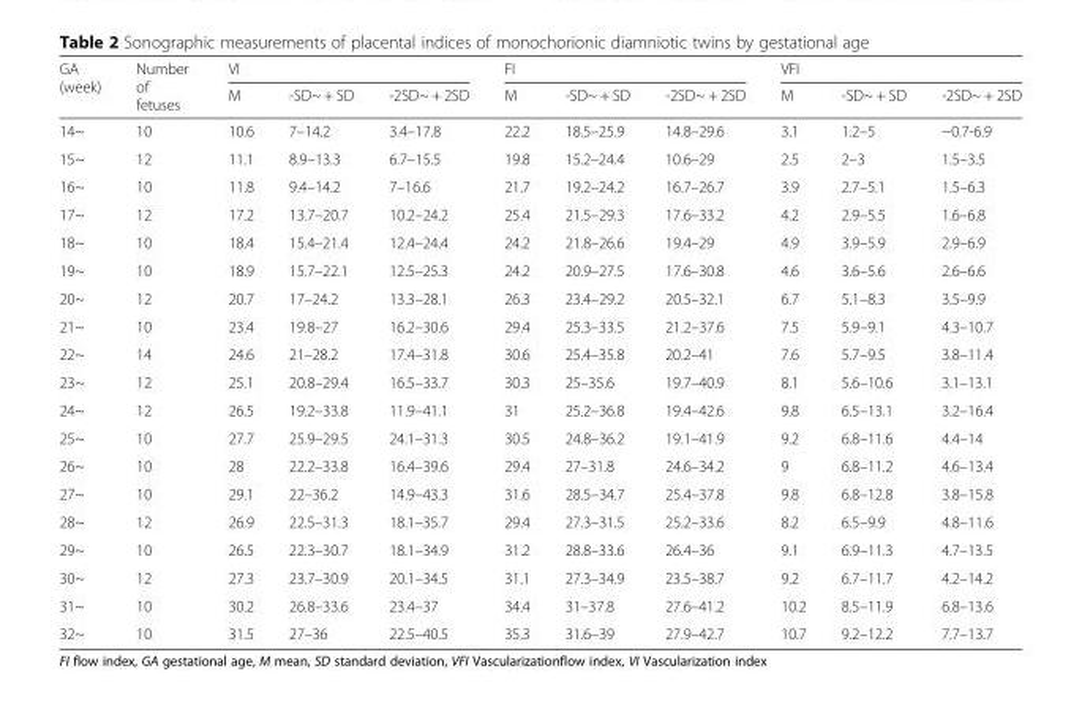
<table><thead><tr><td rowspan="2">GA (week)</td><td rowspan="2">Number of fetuses</td><td colspan="3">VI</td><td colspan="3">FI</td><td colspan="3">VFI</td></tr><tr><td>M</td><td>-SD~ + SD</td><td>-2SD~ + 2SD</td><td>M</td><td>-SD~ + SD</td><td>-2SD~ + 2SD</td><td>M</td><td>-SD~ + SD</td><td>-2SD~ + 2SD</td></tr></thead><tbody><tr><td>14~</td><td>10</td><td>10.6</td><td>7–14.2</td><td>3.4–17.8</td><td>22.2</td><td>18.5–25.9</td><td>14.8–29.6</td><td>3.1</td><td>1.2–5</td><td>−0.7-6.9</td></tr><tr><td>15~</td><td>12</td><td>11.1</td><td>8.9–13.3</td><td>6.7–15.5</td><td>19.8</td><td>15.2–24.4</td><td>10.6–29</td><td>2.5</td><td>2–3</td><td>1.5–3.5</td></tr><tr><td>16~</td><td>10</td><td>11.8</td><td>9.4–14.2</td><td>7–16.6</td><td>21.7</td><td>19.2–24.2</td><td>16.7–26.7</td><td>3.9</td><td>2.7–5.1</td><td>1.5–6.3</td></tr><tr><td>17~</td><td>12</td><td>17.2</td><td>13.7–20.7</td><td>10.2–24.2</td><td>25.4</td><td>21.5–29.3</td><td>17.6–33.2</td><td>4.2</td><td>2.9–5.5</td><td>1.6–6.8</td></tr><tr><td>18~</td><td>10</td><td>18.4</td><td>15.4–21.4</td><td>12.4–24.4</td><td>24.2</td><td>21.8–26.6</td><td>19.4–29</td><td>4.9</td><td>3.9–5.9</td><td>2.9–6.9</td></tr><tr><td>19~</td><td>10</td><td>18.9</td><td>15.7–22.1</td><td>12.5–25.3</td><td>24.2</td><td>20.9–27.5</td><td>17.6–30.8</td><td>4.6</td><td>3.6–5.6</td><td>2.6–6.6</td></tr><tr><td>20~</td><td>12</td><td>20.7</td><td>17–24.2</td><td>13.3–28.1</td><td>26.3</td><td>23.4–29.2</td><td>20.5–32.1</td><td>6.7</td><td>5.1–8.3</td><td>3.5–9.9</td></tr><tr><td>21~</td><td>10</td><td>23.4</td><td>19.8–27</td><td>16.2–30.6</td><td>29.4</td><td>25.3–33.5</td><td>21.2–37.6</td><td>7.5</td><td>5.9–9.1</td><td>4.3–10.7</td></tr><tr><td>22~</td><td>14</td><td>24.6</td><td>21–28.2</td><td>17.4–31.8</td><td>30.6</td><td>25.4–35.8</td><td>20.2–41</td><td>7.6</td><td>5.7–9.5</td><td>3.8–11.4</td></tr><tr><td>23~</td><td>12</td><td>25.1</td><td>20.8–29.4</td><td>16.5–33.7</td><td>30.3</td><td>25–35.6</td><td>19.7–40.9</td><td>8.1</td><td>5.6–10.6</td><td>3.1–13.1</td></tr><tr><td>24~</td><td>12</td><td>26.5</td><td>19.2–33.8</td><td>11.9–41.1</td><td>31</td><td>25.2–36.8</td><td>19.4–42.6</td><td>9.8</td><td>6.5–13.1</td><td>3.2–16.4</td></tr><tr><td>25~</td><td>10</td><td>27.7</td><td>25.9–29.5</td><td>24.1–31.3</td><td>30.5</td><td>24.8–36.2</td><td>19.1–41.9</td><td>9.2</td><td>6.8–11.6</td><td>4.4–14</td></tr><tr><td>26~</td><td>10</td><td>28</td><td>22.2–33.8</td><td>16.4–39.6</td><td>29.4</td><td>27–31.8</td><td>24.6–34.2</td><td>9</td><td>6.8–11.2</td><td>4.6–13.4</td></tr><tr><td>27~</td><td>10</td><td>29.1</td><td>22–36.2</td><td>14.9–43.3</td><td>31.6</td><td>28.5–34.7</td><td>25.4–37.8</td><td>9.8</td><td>6.8–12.8</td><td>3.8–15.8</td></tr><tr><td>28~</td><td>12</td><td>26.9</td><td>22.5–31.3</td><td>18.1–35.7</td><td>29.4</td><td>27.3–31.5</td><td>25.2–33.6</td><td>8.2</td><td>6.5–9.9</td><td>4.8–11.6</td></tr><tr><td>29~</td><td>10</td><td>26.5</td><td>22.3–30.7</td><td>18.1–34.9</td><td>31.2</td><td>28.8–33.6</td><td>26.4–36</td><td>9.1</td><td>6.9–11.3</td><td>4.7–13.5</td></tr><tr><td>30~</td><td>12</td><td>27.3</td><td>23.7–30.9</td><td>20.1–34.5</td><td>31.1</td><td>27.3–34.9</td><td>23.5–38.7</td><td>9.2</td><td>6.7–11.7</td><td>4.2–14.2</td></tr><tr><td>31~</td><td>10</td><td>30.2</td><td>26.8–33.6</td><td>23.4–37</td><td>34.4</td><td>31–37.8</td><td>27.6–41.2</td><td>10.2</td><td>8.5–11.9</td><td>6.8–13.6</td></tr><tr><td>32~</td><td>10</td><td>31.5</td><td>27–36</td><td>22.5–40.5</td><td>35.3</td><td>31.6–39</td><td>27.9–42.7</td><td>10.7</td><td>9.2–12.2</td><td>7.7–13.7</td></tr></tbody></table>